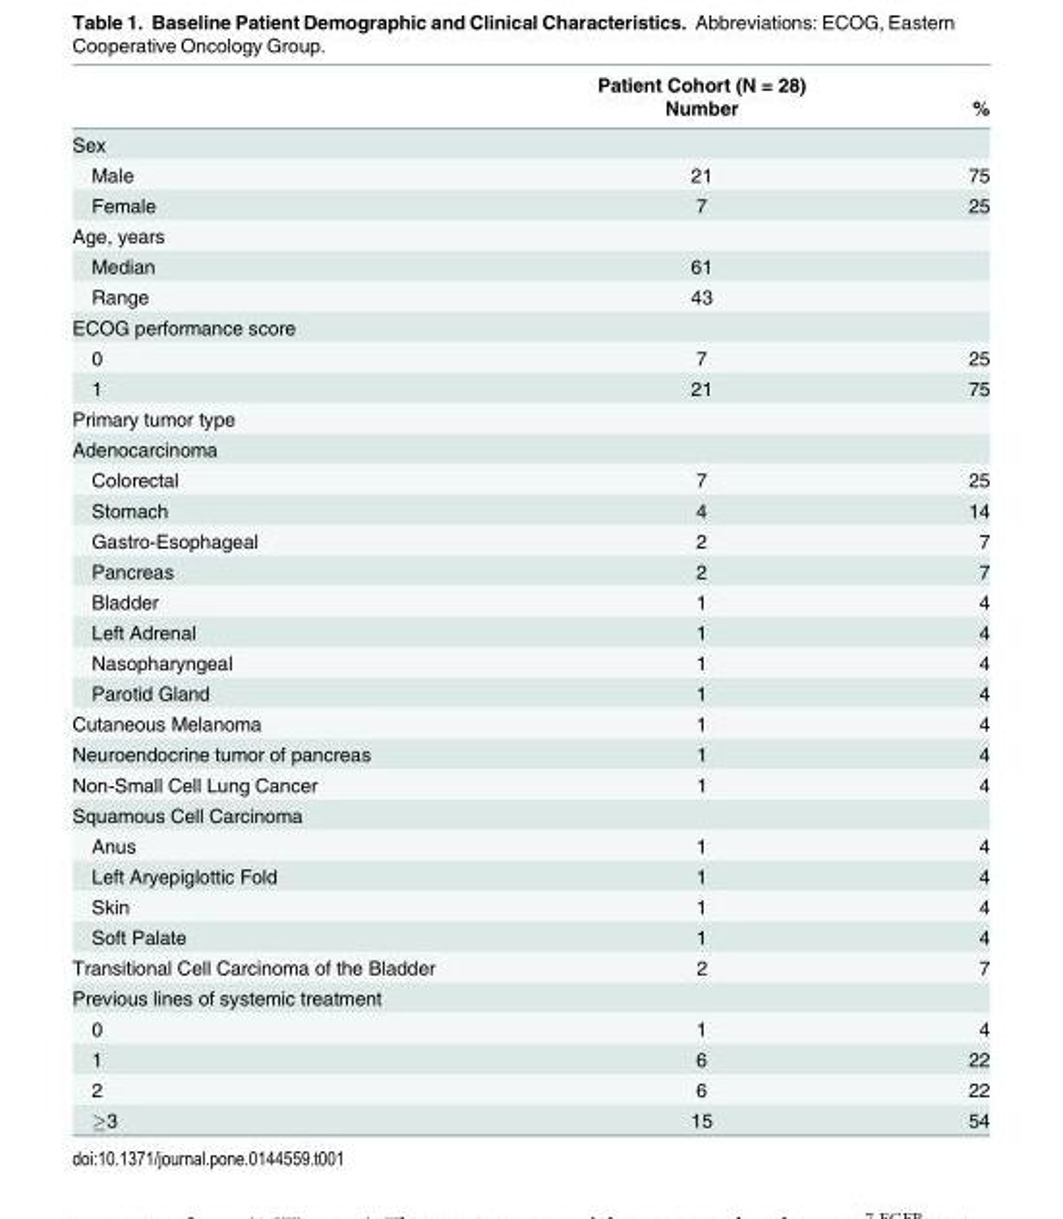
<table><thead><tr><td rowspan="2"></td><td rowspan="2">Patient Cohort (N = 28) Number</td><td rowspan="2">%</td></tr><tr></tr></thead><tbody><tr><td colspan="3">Sex</td></tr><tr><td>Male</td><td>21</td><td>75</td></tr><tr><td>Female</td><td>7</td><td>25</td></tr><tr><td colspan="3">Age, years</td></tr><tr><td>Median</td><td>61</td><td></td></tr><tr><td>Range</td><td>43</td><td></td></tr><tr><td colspan="3">ECOG performance score</td></tr><tr><td>0</td><td>7</td><td>25</td></tr><tr><td>1</td><td>21</td><td>75</td></tr><tr><td colspan="3">Primary tumor type</td></tr><tr><td colspan="3">Adenocarcinoma</td></tr><tr><td>Colorectal</td><td>7</td><td>25</td></tr><tr><td>Stomach</td><td>4</td><td>14</td></tr><tr><td>Gastro-Esophageal</td><td>2</td><td>7</td></tr><tr><td>Pancreas</td><td>2</td><td>7</td></tr><tr><td>Bladder</td><td>1</td><td>4</td></tr><tr><td>Left Adrenal</td><td>1</td><td>4</td></tr><tr><td>Nasopharyngeal</td><td>1</td><td>4</td></tr><tr><td>Parotid Gland</td><td>1</td><td>4</td></tr><tr><td>Cutaneous Melanoma</td><td>1</td><td>4</td></tr><tr><td>Neuroendocrine tumor of pancreas</td><td>1</td><td>4</td></tr><tr><td>Non-Small Cell Lung Cancer</td><td>1</td><td>4</td></tr><tr><td colspan="3">Squamous Cell Carcinoma</td></tr><tr><td>Anus</td><td>1</td><td>4</td></tr><tr><td>Left Aryepiglottic Fold</td><td>1</td><td>4</td></tr><tr><td>Skin</td><td>1</td><td>4</td></tr><tr><td>Soft Palate</td><td>1</td><td>4</td></tr><tr><td>Transitional Cell Carcinoma of the Bladder</td><td>2</td><td>7</td></tr><tr><td colspan="3">Previous lines of systemic treatment</td></tr><tr><td>0</td><td>1</td><td>4</td></tr><tr><td>1</td><td>6</td><td>22</td></tr><tr><td>2</td><td>6</td><td>22</td></tr><tr><td>≥3</td><td>15</td><td>54</td></tr></tbody></table>